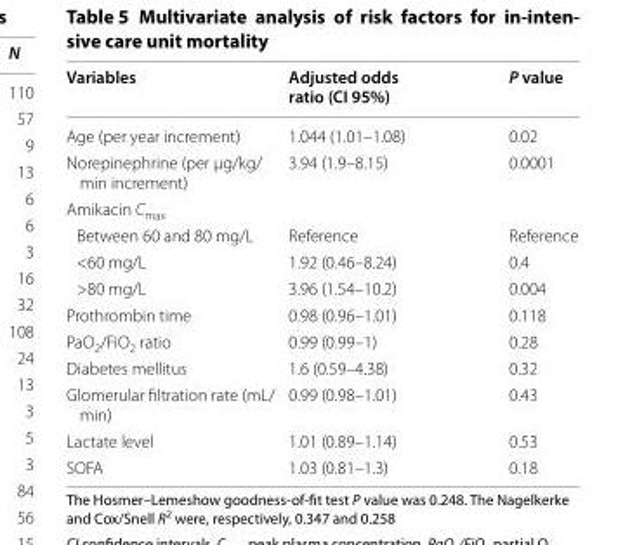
<table><thead><tr><td>Variables</td><td>Adjusted odds ratio (CI 95%)</td><td>P value</td></tr></thead><tbody><tr><td>Age (per year increment)</td><td>1.044 (1.01–1.08)</td><td>0.02</td></tr><tr><td>Norepinephrine (per µg/kg/ min increment)</td><td>3.94 (1.9–8.15)</td><td>0.0001</td></tr><tr><td colspan="3">Amikacin C<sub>max</sub></td></tr><tr><td>Between 60 and 80 mg/L</td><td>Reference</td><td>Reference</td></tr><tr><td>&lt;60 mg/L</td><td>1.92 (0.46–8.24)</td><td>0.4</td></tr><tr><td>&gt;80 mg/L</td><td>3.96 (1.54–10.2)</td><td>0.004</td></tr><tr><td>Prothrombin time</td><td>0.98 (0.96–1.01)</td><td>0.118</td></tr><tr><td>PaO<sub>2</sub>/FiO<sub>2</sub> ratio</td><td>0.99 (0.99–1)</td><td>0.28</td></tr><tr><td>Diabetes mellitus</td><td>1.6 (0.59–4.38)</td><td>0.32</td></tr><tr><td>Glomerular filtration rate (mL/ min)</td><td>0.99 (0.98–1.01)</td><td>0.43</td></tr><tr><td>Lactate level</td><td>1.01 (0.89–1.14)</td><td>0.53</td></tr><tr><td>SOFA</td><td>1.03 (0.81–1.3)</td><td>0.18</td></tr></tbody></table>